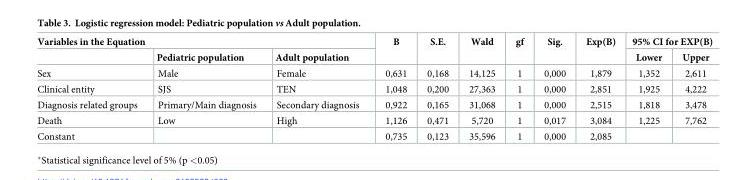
<table><thead><tr><td colspan="3">Variables in the Equation</td><td rowspan="2">B</td><td rowspan="2">S.E.</td><td rowspan="2">Wald</td><td rowspan="2">gf</td><td rowspan="2">Sig.</td><td rowspan="2">Exp(B)</td><td colspan="2">95% CI for EXP(B)</td></tr><tr><td></td><td>Pediatric population</td><td>Adult population</td><td>Lower</td><td>Upper</td></tr></thead><tbody><tr><td>Sex</td><td>Male</td><td>Female</td><td>0,631</td><td>0,168</td><td>14,125</td><td>1</td><td>0,000</td><td>1,879</td><td>1,352</td><td>2,611</td></tr><tr><td>Clinical entity</td><td>SJS</td><td>TEN</td><td>1,048</td><td>0,200</td><td>27,363</td><td>1</td><td>0,000</td><td>2,851</td><td>1,925</td><td>4,222</td></tr><tr><td>Diagnosis related groups</td><td>Primary/Main diagnosis</td><td>Secondary diagnosis</td><td>0,922</td><td>0,165</td><td>31,068</td><td>1</td><td>0,000</td><td>2,515</td><td>1,818</td><td>3,478</td></tr><tr><td>Death</td><td>Low</td><td>High</td><td>1,126</td><td>0,471</td><td>5,720</td><td>1</td><td>0,017</td><td>3,084</td><td>1,225</td><td>7,762</td></tr><tr><td>Constant</td><td></td><td></td><td>0,735</td><td>0,123</td><td>35,596</td><td>1</td><td>0,000</td><td>2,085</td><td></td><td></td></tr></tbody></table>